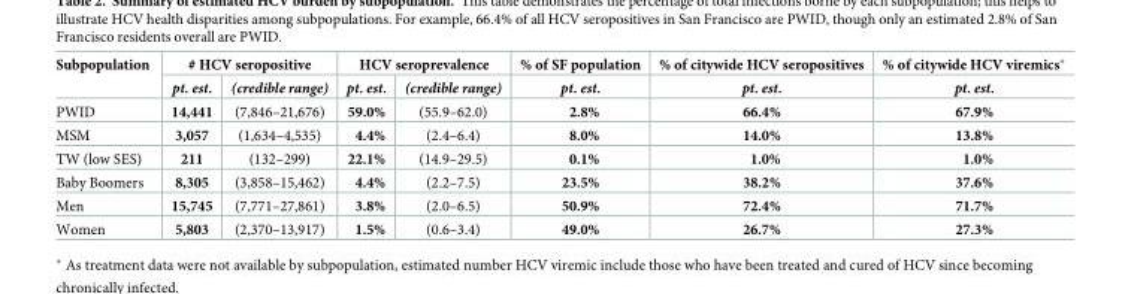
<table><thead><tr><td rowspan="2">Subpopulation</td><td colspan="2"># HCV seropositive</td><td colspan="2">HCV seroprevalence</td><td rowspan="2">% of SF population pt. est.</td><td rowspan="2">% of citywide HCV seropositives pt. est.</td><td rowspan="2">% of citywide HCV viremics* pt. est.</td></tr><tr><td>pt. est.</td><td>(credible range)</td><td>pt. est.</td><td>(credible range)</td></tr></thead><tbody><tr><td>PWID</td><td>14,441</td><td>(7,846–21,676)</td><td>59.0%</td><td>(55.9–62.0)</td><td>2.8%</td><td>66.4%</td><td>67.9%</td></tr><tr><td>MSM</td><td>3,057</td><td>(1,634–4,535)</td><td>4.4%</td><td>(2.4–6.4)</td><td>8.0%</td><td>14.0%</td><td>13.8%</td></tr><tr><td>TW (low SES)</td><td>211</td><td>(132–299)</td><td>22.1%</td><td>(14.9–29.5)</td><td>0.1%</td><td>1.0%</td><td>1.0%</td></tr><tr><td>Baby Boomers</td><td>8,305</td><td>(3,858–15,462)</td><td>4.4%</td><td>(2.2–7.5)</td><td>23.5%</td><td>38.2%</td><td>37.6%</td></tr><tr><td>Men</td><td>15,745</td><td>(7,771–27,861)</td><td>3.8%</td><td>(2.0–6.5)</td><td>50.9%</td><td>72.4%</td><td>71.7%</td></tr><tr><td>Women</td><td>5,803</td><td>(2,370–13,917)</td><td>1.5%</td><td>(0.6–3.4)</td><td>49.0%</td><td>26.7%</td><td>27.3%</td></tr></tbody></table>